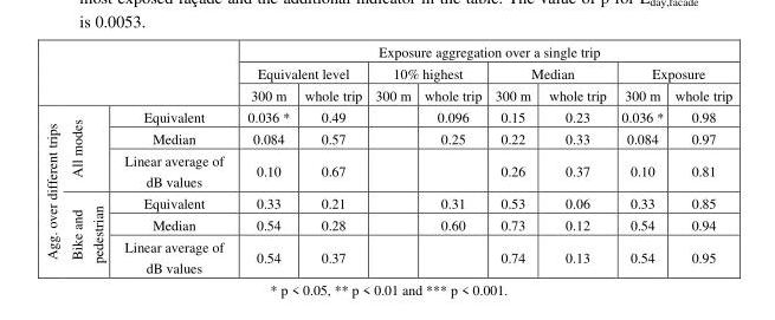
<table><thead><tr><td rowspan="3"></td><td rowspan="3"></td><td rowspan="3"></td><td colspan="8">Exposure aggregation over a single trip</td></tr><tr><td colspan="2">Equivalent level</td><td colspan="2">10% highest</td><td colspan="2">Median</td><td colspan="2">Exposure</td></tr><tr><td>300 m</td><td>whole trip</td><td>300 m</td><td>whole trip</td><td>300 m</td><td>whole trip</td><td>300 m</td><td>whole trip</td></tr></thead><tbody><tr><td rowspan="6">Agg. over different trips</td><td rowspan="3">All modes</td><td>Equivalent</td><td>0.036 *</td><td>0.49</td><td></td><td>0.096</td><td>0.15</td><td>0.23</td><td>0.036 *</td><td>0.98</td></tr><tr><td>Median</td><td>0.084</td><td>0.57</td><td></td><td>0.25</td><td>0.22</td><td>0.33</td><td>0.084</td><td>0.97</td></tr><tr><td>Linear average of dB values</td><td>0.10</td><td>0.67</td><td></td><td></td><td>0.26</td><td>0.37</td><td>0.10</td><td>0.81</td></tr><tr><td rowspan="3">Bike and pedestrian</td><td>Equivalent</td><td>0.33</td><td>0.21</td><td></td><td>0.31</td><td>0.53</td><td>0.06</td><td>0.33</td><td>0.85</td></tr><tr><td>Median</td><td>0.54</td><td>0.28</td><td></td><td>0.60</td><td>0.73</td><td>0.12</td><td>0.54</td><td>0.94</td></tr><tr><td>Linear average of dB values</td><td>0.54</td><td>0.37</td><td></td><td></td><td>0.74</td><td>0.13</td><td>0.54</td><td>0.95</td></tr></tbody></table>